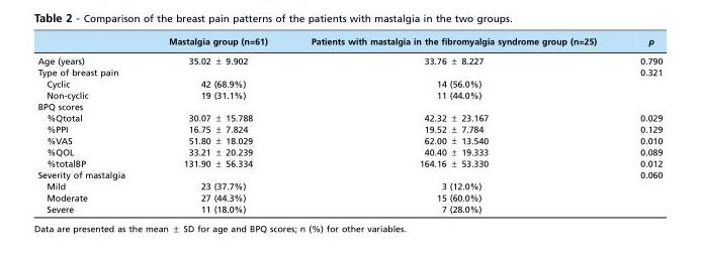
<table><thead><tr><td></td><td>Mastalgia group (n=61)</td><td>Patients with mastalgia in the fibromyalgia syndrome group (n=25)</td><td>p</td></tr></thead><tbody><tr><td>Age (years)</td><td>35.02 ± 9.902</td><td>33.76 ± 8.227</td><td>0.790</td></tr><tr><td>Type of breast pain</td><td></td><td></td><td>0.321</td></tr><tr><td>Cyclic</td><td>42 (68.9%)</td><td>14 (56.0%)</td><td></td></tr><tr><td>Non-cyclic</td><td>19 (31.1%)</td><td>11 (44.0%)</td><td></td></tr><tr><td colspan="4">BPQ scores</td></tr><tr><td>%Qtotal</td><td>30.07 ± 15.788</td><td>42.32 ± 23.167</td><td>0.029</td></tr><tr><td>%PPI</td><td>16.75 ± 7.824</td><td>19.52 ± 7.784</td><td>0.129</td></tr><tr><td>%VAS</td><td>51.80 ± 18.029</td><td>62.00 ± 13.540</td><td>0.010</td></tr><tr><td>%QOL</td><td>33.21 ± 20.239</td><td>40.40 ± 19.333</td><td>0.089</td></tr><tr><td>%totalBP</td><td>131.90 ± 56.334</td><td>164.16 ± 53.330</td><td>0.012</td></tr><tr><td>Severity of mastalgia</td><td></td><td></td><td>0.060</td></tr><tr><td>Mild</td><td>23 (37.7%)</td><td>3 (12.0%)</td><td></td></tr><tr><td>Moderate</td><td>27 (44.3%)</td><td>15 (60.0%)</td><td></td></tr><tr><td>Severe</td><td>11 (18.0%)</td><td>7 (28.0%)</td><td></td></tr></tbody></table>